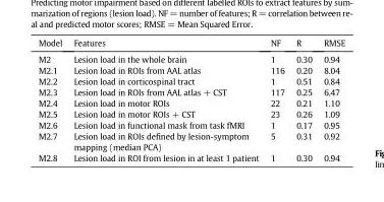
<table><thead><tr><td>Model</td><td>Features</td><td>NF</td><td>R</td><td>RMSE</td></tr></thead><tbody><tr><td>M2</td><td>Lesion load in the whole brain</td><td>1</td><td>0.30</td><td>0.94</td></tr><tr><td>M2.1</td><td>Lesion load in ROIs from AAL atlas</td><td>116</td><td>0.20</td><td>8.04</td></tr><tr><td>M2.2</td><td>Lesion load in corticospinal tract</td><td>1</td><td>0.51</td><td>0.84</td></tr><tr><td>M2.3</td><td>Lesion load in ROIs from AAL atlas + CST</td><td>117</td><td>0.25</td><td>6.47</td></tr><tr><td>M2.4</td><td>Lesion load in motor ROIs</td><td>22</td><td>0.21</td><td>1.10</td></tr><tr><td>M2.5</td><td>Lesion load in motor ROIs + CST</td><td>23</td><td>0.26</td><td>1.09</td></tr><tr><td>M2.6</td><td>Lesion load in functional mask from task fMRI</td><td>1</td><td>0.17</td><td>0.95</td></tr><tr><td>M2.7</td><td>Lesion load in ROIs defined by lesion-symptom mapping (median PCA)</td><td>5</td><td>0.31</td><td>0.92</td></tr><tr><td>M2.8</td><td>Lesion load in ROI from lesion in at least 1 patient</td><td>1</td><td>0.30</td><td>0.94</td></tr></tbody></table>